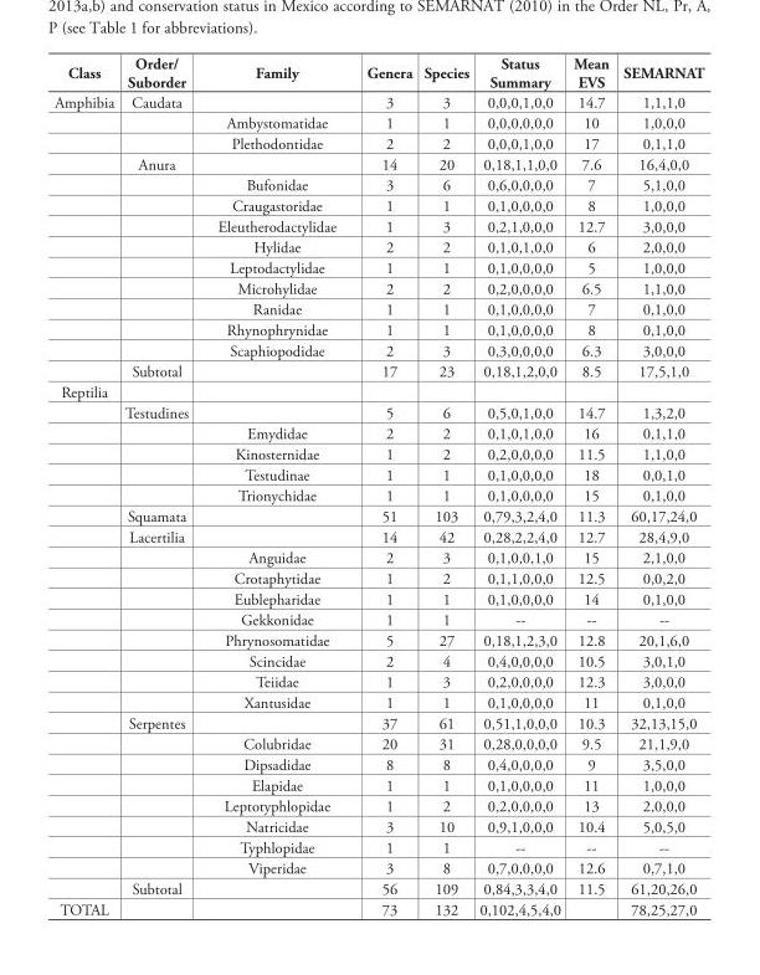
<table><thead><tr><td>Class</td><td>Order/ Suborder</td><td>Family</td><td>Genera</td><td>Species</td><td>Status Summary</td><td>Mean EVS</td><td>SEMARNAT</td></tr></thead><tbody><tr><td rowspan="14">Amphibia</td><td>Caudata</td><td></td><td>3</td><td>3</td><td>0,0,0,1,0,0</td><td>14.7</td><td>1,1,1,0</td></tr><tr><td></td><td>Ambystomatidae</td><td>1</td><td>1</td><td>0,0,0,0,0,0</td><td>10</td><td>1,0,0,0</td></tr><tr><td></td><td>Plethodontidae</td><td>2</td><td>2</td><td>0,0,0,1,0,0</td><td>17</td><td>0,1,1,0</td></tr><tr><td>Anura</td><td></td><td>14</td><td>20</td><td>0,18,1,1,0,0</td><td>7.6</td><td>16,4,0,0</td></tr><tr><td></td><td>Bufonidae</td><td>3</td><td>6</td><td>0,6,0,0,0,0</td><td>7</td><td>5,1,0,0</td></tr><tr><td></td><td>Craugastoridae</td><td>1</td><td>1</td><td>0,1,0,0,0,0</td><td>8</td><td>1,0,0,0</td></tr><tr><td></td><td>Eleutherodactylidae</td><td>1</td><td>3</td><td>0,2,1,0,0,0</td><td>12.7</td><td>3,0,0,0</td></tr><tr><td></td><td>Hylidae</td><td>2</td><td>2</td><td>0,1,0,1,0,0</td><td>6</td><td>2,0,0,0</td></tr><tr><td></td><td>Leptodactylidae</td><td>1</td><td>1</td><td>0,1,0,0,0,0</td><td>5</td><td>1,0,0,0</td></tr><tr><td></td><td>Microhylidae</td><td>2</td><td>2</td><td>0,2,0,0,0,0</td><td>6.5</td><td>1,1,0,0</td></tr><tr><td></td><td>Ranidae</td><td>1</td><td>1</td><td>0,1,0,0,0,0</td><td>7</td><td>0,1,0,0</td></tr><tr><td></td><td>Rhynophrynidae</td><td>1</td><td>1</td><td>0,1,0,0,0,0</td><td>8</td><td>0,1,0,0</td></tr><tr><td></td><td>Scaphiopodidae</td><td>2</td><td>3</td><td>0,3,0,0,0,0</td><td>6.3</td><td>3,0,0,0</td></tr><tr><td>Subtotal</td><td></td><td>17</td><td>23</td><td>0,18,1,2,0,0</td><td>8.5</td><td>17,5,1,0</td></tr><tr><td colspan="8">Reptilia</td></tr><tr><td></td><td>Testudines</td><td></td><td>5</td><td>6</td><td>0,5,0,1,0,0</td><td>14.7</td><td>1,3,2,0</td></tr><tr><td></td><td></td><td>Emydidae</td><td>2</td><td>2</td><td>0,1,0,1,0,0</td><td>16</td><td>0,1,1,0</td></tr><tr><td></td><td></td><td>Kinosternidae</td><td>1</td><td>2</td><td>0,2,0,0,0,0</td><td>11.5</td><td>1,1,0,0</td></tr><tr><td></td><td></td><td>Testudinae</td><td>1</td><td>1</td><td>0,1,0,0,0,0</td><td>18</td><td>0,0,1,0</td></tr><tr><td></td><td></td><td>Trionychidae</td><td>1</td><td>1</td><td>0,1,0,0,0,0</td><td>15</td><td>0,1,0,0</td></tr><tr><td></td><td>Squamata</td><td></td><td>51</td><td>103</td><td>0,79,3,2,4,0</td><td>11.3</td><td>60,17,24,0</td></tr><tr><td></td><td>Lacertilia</td><td></td><td>14</td><td>42</td><td>0,28,2,2,4,0</td><td>12.7</td><td>28,4,9,0</td></tr><tr><td></td><td></td><td>Anguidae</td><td>2</td><td>3</td><td>0,1,0,0,1,0</td><td>15</td><td>2,1,0,0</td></tr><tr><td></td><td></td><td>Crotaphytidae</td><td>1</td><td>2</td><td>0,1,1,0,0,0</td><td>12.5</td><td>0,0,2,0</td></tr><tr><td></td><td></td><td>Eublepharidae</td><td>1</td><td>1</td><td>0,1,0,0,0,0</td><td>14</td><td>0,1,0,0</td></tr><tr><td></td><td></td><td>Gekkonidae</td><td>1</td><td>1</td><td>--</td><td>--</td><td>--</td></tr><tr><td></td><td></td><td>Phrynosomatidae</td><td>5</td><td>27</td><td>0,18,1,2,3,0</td><td>12.8</td><td>20,1,6,0</td></tr><tr><td></td><td></td><td>Scincidae</td><td>2</td><td>4</td><td>0,4,0,0,0,0</td><td>10.5</td><td>3,0,1,0</td></tr><tr><td></td><td></td><td>Teiidae</td><td>1</td><td>3</td><td>0,2,0,0,0,0</td><td>12.3</td><td>3,0,0,0</td></tr><tr><td></td><td></td><td>Xantusidae</td><td>1</td><td>1</td><td>0,1,0,0,0,0</td><td>11</td><td>0,1,0,0</td></tr><tr><td></td><td>Serpentes</td><td></td><td>37</td><td>61</td><td>0,51,1,0,0,0</td><td>10.3</td><td>32,13,15,0</td></tr><tr><td></td><td></td><td>Colubridae</td><td>20</td><td>31</td><td>0,28,0,0,0,0</td><td>9.5</td><td>21,1,9,0</td></tr><tr><td></td><td></td><td>Dipsadidae</td><td>8</td><td>8</td><td>0,4,0,0,0,0</td><td>9</td><td>3,5,0,0</td></tr><tr><td></td><td></td><td>Elapidae</td><td>1</td><td>1</td><td>0,1,0,0,0,0</td><td>11</td><td>1,0,0,0</td></tr><tr><td></td><td></td><td>Leptotyphlopidae</td><td>1</td><td>2</td><td>0,2,0,0,0,0</td><td>13</td><td>2,0,0,0</td></tr><tr><td></td><td></td><td>Natricidae</td><td>3</td><td>10</td><td>0,9,1,0,0,0</td><td>10.4</td><td>5,0,5,0</td></tr><tr><td></td><td></td><td>Typhlopidae</td><td>1</td><td>1</td><td>--</td><td>--</td><td>--</td></tr><tr><td></td><td></td><td>Viperidae</td><td>3</td><td>8</td><td>0,7,0,0,0,0</td><td>12.6</td><td>0,7,1,0</td></tr><tr><td></td><td>Subtotal</td><td></td><td>56</td><td>109</td><td>0,84,3,3,4,0</td><td>11.5</td><td>61,20,26,0</td></tr><tr><td>TOTAL</td><td></td><td></td><td>73</td><td>132</td><td>0,102,4,5,4,0</td><td></td><td>78,25,27,0</td></tr></tbody></table>